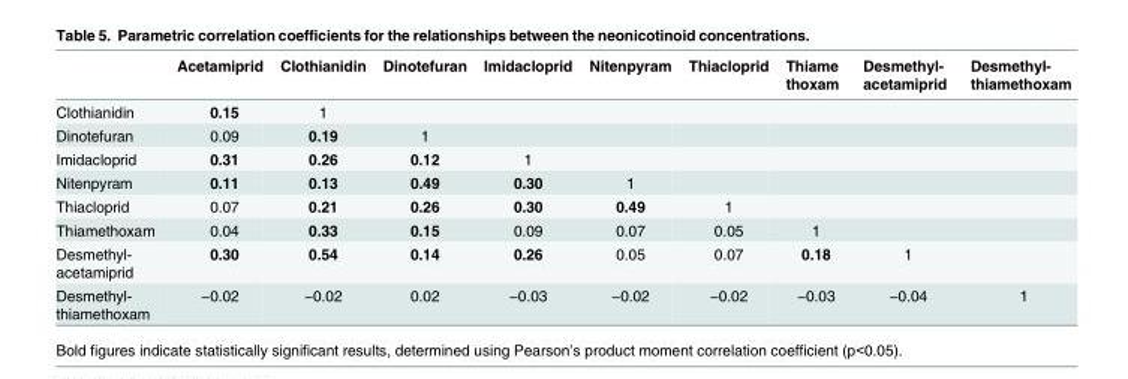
<table><thead><tr><td></td><td>Acetamiprid</td><td>Clothianidin</td><td>Dinotefuran</td><td>Imidacloprid</td><td>Nitenpyram</td><td>Thiacloprid</td><td>Thiame thoxam</td><td>Desmethyl- acetamiprid</td><td>Desmethyl- thiamethoxam</td></tr></thead><tbody><tr><td>Clothianidin</td><td>0.15</td><td>1</td><td></td><td></td><td></td><td></td><td></td><td></td><td></td></tr><tr><td>Dinotefuran</td><td>0.09</td><td>0.19</td><td>1</td><td></td><td></td><td></td><td></td><td></td><td></td></tr><tr><td>Imidacloprid</td><td>0.31</td><td>0.26</td><td>0.12</td><td>1</td><td></td><td></td><td></td><td></td><td></td></tr><tr><td>Nitenpyram</td><td>0.11</td><td>0.13</td><td>0.49</td><td>0.30</td><td>1</td><td></td><td></td><td></td><td></td></tr><tr><td>Thiacloprid</td><td>0.07</td><td>0.21</td><td>0.26</td><td>0.30</td><td>0.49</td><td>1</td><td></td><td></td><td></td></tr><tr><td>Thiamethoxam</td><td>0.04</td><td>0.33</td><td>0.15</td><td>0.09</td><td>0.07</td><td>0.05</td><td>1</td><td></td><td></td></tr><tr><td>Desmethyl- acetamiprid</td><td>0.30</td><td>0.54</td><td>0.14</td><td>0.26</td><td>0.05</td><td>0.07</td><td>0.18</td><td>1</td><td></td></tr><tr><td>Desmethyl- thiamethoxam</td><td>−0.02</td><td>−0.02</td><td>0.02</td><td>−0.03</td><td>−0.02</td><td>−0.02</td><td>−0.03</td><td>−0.04</td><td>1</td></tr></tbody></table>